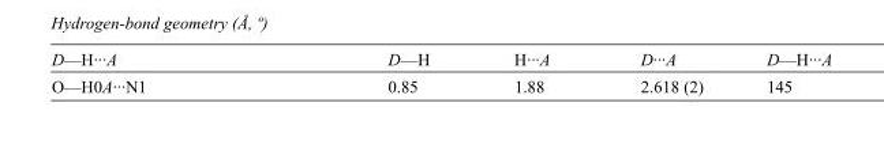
<table><tbody><tr><td>D—H···A</td><td>D—H</td><td>H···A</td><td>D···A</td><td>D—H···A</td></tr><tr><td>O—H0A···N1</td><td>0.85</td><td>1.88</td><td>2.618 (2)</td><td>145</td></tr></tbody></table>